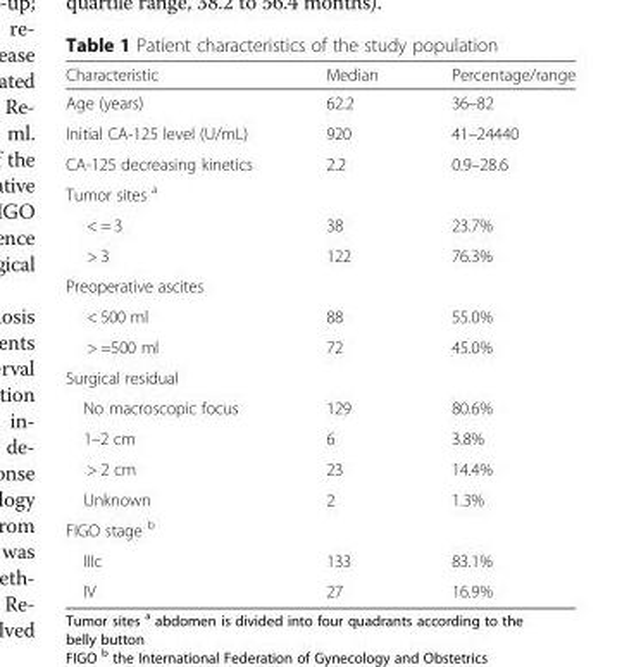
<table><thead><tr><td>Characteristic</td><td>Median</td><td>Percentage/range</td></tr></thead><tbody><tr><td>Age (years)</td><td>62.2</td><td>36–82</td></tr><tr><td>Initial CA-125 level (U/mL)</td><td>920</td><td>41–24440</td></tr><tr><td>CA-125 decreasing kinetics</td><td>2.2</td><td>0.9–28.6</td></tr><tr><td colspan="3">Tumor sites <sup>a</sup></td></tr><tr><td>&lt; = 3</td><td>38</td><td>23.7%</td></tr><tr><td>&gt; 3</td><td>122</td><td>76.3%</td></tr><tr><td colspan="3">Preoperative ascites</td></tr><tr><td>&lt; 500 ml</td><td>88</td><td>55.0%</td></tr><tr><td>&gt; =500 ml</td><td>72</td><td>45.0%</td></tr><tr><td colspan="3">Surgical residual</td></tr><tr><td>No macroscopic focus</td><td>129</td><td>80.6%</td></tr><tr><td>1–2 cm</td><td>6</td><td>3.8%</td></tr><tr><td>&gt; 2 cm</td><td>23</td><td>14.4%</td></tr><tr><td>Unknown</td><td>2</td><td>1.3%</td></tr><tr><td colspan="3">FIGO stage <sup>b</sup></td></tr><tr><td>IIIc</td><td>133</td><td>83.1%</td></tr><tr><td>IV</td><td>27</td><td>16.9%</td></tr></tbody></table>